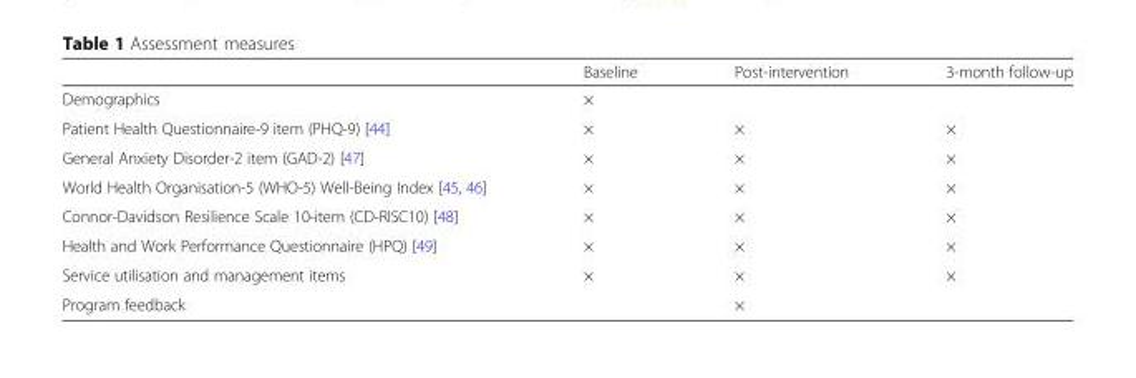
<table><thead><tr><td></td><td>Baseline</td><td>Post-intervention</td><td>3-month follow-up</td></tr></thead><tbody><tr><td>Demographics</td><td>×</td><td></td><td></td></tr><tr><td>Patient Health Questionnaire-9 item (PHQ-9) [44]</td><td>×</td><td>×</td><td>×</td></tr><tr><td>General Anxiety Disorder-2 item (GAD-2) [47]</td><td>×</td><td>×</td><td>×</td></tr><tr><td>World Health Organisation-5 (WHO-5) Well-Being Index [45, 46]</td><td>×</td><td>×</td><td>×</td></tr><tr><td>Connor-Davidson Resilience Scale 10-item (CD-RISC10) [48]</td><td>×</td><td>×</td><td>×</td></tr><tr><td>Health and Work Performance Questionnaire (HPQ) [49]</td><td>×</td><td>×</td><td>×</td></tr><tr><td>Service utilisation and management items</td><td>×</td><td>×</td><td>×</td></tr><tr><td>Program feedback</td><td></td><td>×</td><td></td></tr></tbody></table>